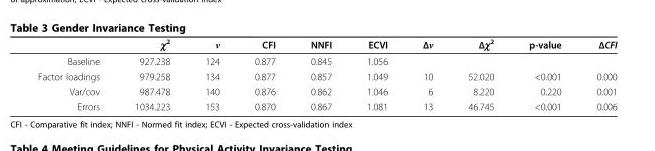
<table><thead><tr><td></td><td>χ<sup>2</sup></td><td>ν</td><td>CFI</td><td>NNFI</td><td>ECVI</td><td>Δν</td><td>Δχ<sup>2</sup></td><td>p-value</td><td>ΔCFI</td></tr></thead><tbody><tr><td>Baseline</td><td>927.238</td><td>124</td><td>0.877</td><td>0.845</td><td>1.056</td><td></td><td></td><td></td><td></td></tr><tr><td>Factor loadings</td><td>979.258</td><td>134</td><td>0.877</td><td>0.857</td><td>1.049</td><td>10</td><td>52.020</td><td>&lt;0.001</td><td>0.000</td></tr><tr><td>Var/cov</td><td>987.478</td><td>140</td><td>0.876</td><td>0.862</td><td>1.046</td><td>6</td><td>8.220</td><td>0.220</td><td>0.001</td></tr><tr><td>Errors</td><td>1034.223</td><td>153</td><td>0.870</td><td>0.867</td><td>1.081</td><td>13</td><td>46.745</td><td>&lt;0.001</td><td>0.006</td></tr></tbody></table>